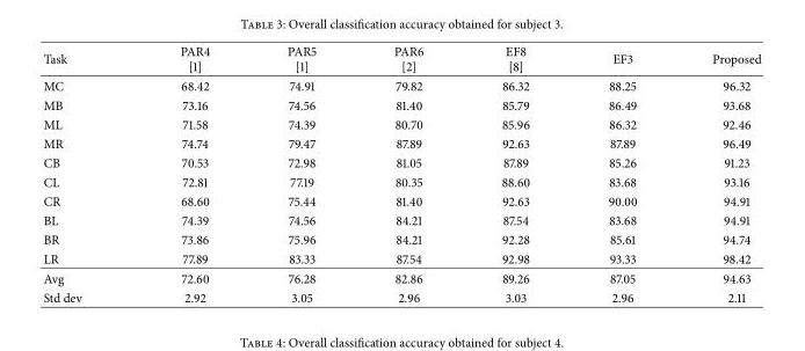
<table><thead><tr><td>Task</td><td>PAR4 [1]</td><td>PAR5 [1]</td><td>PAR6 [2]</td><td>EF8 [8]</td><td>EF3</td><td>Proposed</td></tr></thead><tbody><tr><td>MC</td><td>68.42</td><td>74.91</td><td>79.82</td><td>86.32</td><td>88.25</td><td>96.32</td></tr><tr><td>MB</td><td>73.16</td><td>74.56</td><td>81.40</td><td>85.79</td><td>86.49</td><td>93.68</td></tr><tr><td>ML</td><td>71.58</td><td>74.39</td><td>80.70</td><td>85.96</td><td>86.32</td><td>92.46</td></tr><tr><td>MR</td><td>74.74</td><td>79.47</td><td>87.89</td><td>92.63</td><td>87.89</td><td>96.49</td></tr><tr><td>CB</td><td>70.53</td><td>72.98</td><td>81.05</td><td>87.89</td><td>85.26</td><td>91.23</td></tr><tr><td>CL</td><td>72.81</td><td>77.19</td><td>80.35</td><td>88.60</td><td>83.68</td><td>93.16</td></tr><tr><td>CR</td><td>68.60</td><td>75.44</td><td>81.40</td><td>92.63</td><td>90.00</td><td>94.91</td></tr><tr><td>BL</td><td>74.39</td><td>74.56</td><td>84.21</td><td>87.54</td><td>83.68</td><td>94.91</td></tr><tr><td>BR</td><td>73.86</td><td>75.96</td><td>84.21</td><td>92.28</td><td>85.61</td><td>94.74</td></tr><tr><td>LR</td><td>77.89</td><td>83.33</td><td>87.54</td><td>92.98</td><td>93.33</td><td>98.42</td></tr><tr><td>Avg</td><td>72.60</td><td>76.28</td><td>82.86</td><td>89.26</td><td>87.05</td><td>94.63</td></tr><tr><td>Std dev</td><td>2.92</td><td>3.05</td><td>2.96</td><td>3.03</td><td>2.96</td><td>2.11</td></tr></tbody></table>